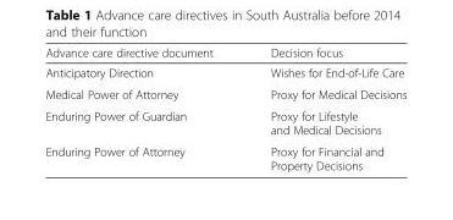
<table><thead><tr><td>Advance care directive document</td><td>Decision focus</td></tr></thead><tbody><tr><td>Anticipatory Direction</td><td>Wishes for End-of-Life Care</td></tr><tr><td>Medical Power of Attorney</td><td>Proxy for Medical Decisions</td></tr><tr><td>Enduring Power of Guardian</td><td>Proxy for Lifestyle and Medical Decisions</td></tr><tr><td>Enduring Power of Attorney</td><td>Proxy for Financial and Property Decisions</td></tr></tbody></table>